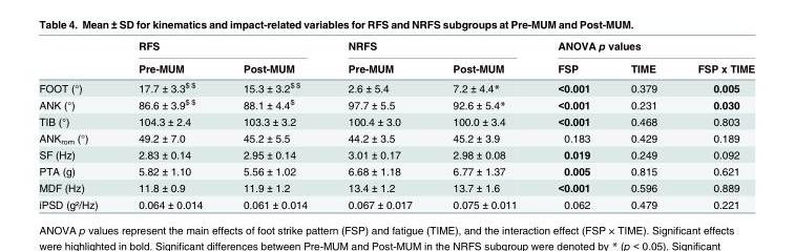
<table><thead><tr><td rowspan="2"></td><td colspan="2">RFS</td><td colspan="2">NRFS</td><td colspan="3">ANOVA p values</td></tr><tr><td>Pre-MUM</td><td>Post-MUM</td><td>Pre-MUM</td><td>Post-MUM</td><td>FSP</td><td>TIME</td><td>FSP x TIME</td></tr></thead><tbody><tr><td>FOOT (°)</td><td>17.7 ± 3.3<sup>$ $</sup></td><td>15.3 ± 3.2<sup>$ $</sup></td><td>2.6 ± 5.4</td><td>7.2 ± 4.4*</td><td>&lt;0.001</td><td>0.379</td><td>0.005</td></tr><tr><td>ANK (°)</td><td>86.6 ± 3.9<sup>$ $</sup></td><td>88.1 ± 4.4<sup>$</sup></td><td>97.7 ± 5.5</td><td>92.6 ± 5.4*</td><td>&lt;0.001</td><td>0.231</td><td>0.030</td></tr><tr><td>TIB (°)</td><td>104.3 ± 2.4</td><td>103.3 ± 3.2</td><td>100.4 ± 3.0</td><td>100.0 ± 3.4</td><td>&lt;0.001</td><td>0.468</td><td>0.803</td></tr><tr><td>ANK<sub>rom</sub> (°)</td><td>49.2 ± 7.0</td><td>45.2 ± 5.5</td><td>44.2 ± 3.5</td><td>45.2 ± 3.9</td><td>0.183</td><td>0.429</td><td>0.189</td></tr><tr><td>SF (Hz)</td><td>2.83 ± 0.14</td><td>2.95 ± 0.14</td><td>3.01 ± 0.17</td><td>2.98 ± 0.08</td><td>0.019</td><td>0.249</td><td>0.092</td></tr><tr><td>PTA (g)</td><td>5.82 ± 1.10</td><td>5.56 ± 1.02</td><td>6.68 ± 1.18</td><td>6.77 ± 1.37</td><td>0.005</td><td>0.815</td><td>0.621</td></tr><tr><td>MDF (Hz)</td><td>11.8 ± 0.9</td><td>11.9 ± 1.2</td><td>13.4 ± 1.2</td><td>13.7 ± 1.6</td><td>&lt;0.001</td><td>0.596</td><td>0.889</td></tr><tr><td>iPSD (g²/Hz)</td><td>0.064 ± 0.014</td><td>0.061 ± 0.014</td><td>0.067 ± 0.017</td><td>0.075 ± 0.011</td><td>0.062</td><td>0.479</td><td>0.221</td></tr></tbody></table>